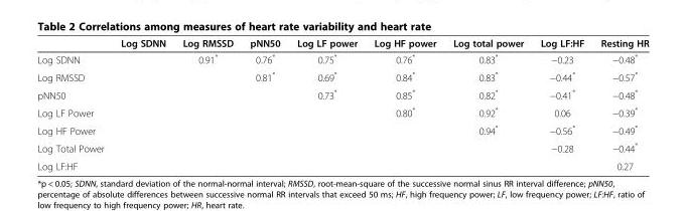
<table><thead><tr><td></td><td>Log SDNN</td><td>Log RMSSD</td><td>pNN50</td><td>Log LF power</td><td>Log HF power</td><td>Log total power</td><td>Log LF:HF</td><td>Resting HR</td></tr></thead><tbody><tr><td>Log SDNN</td><td></td><td>0.91*</td><td>0.76*</td><td>0.75*</td><td>0.76*</td><td>0.83*</td><td>−0.23</td><td>−0.48*</td></tr><tr><td>Log RMSSD</td><td></td><td></td><td>0.81*</td><td>0.69*</td><td>0.84*</td><td>0.83*</td><td>−0.44*</td><td>−0.57*</td></tr><tr><td>pNN50</td><td></td><td></td><td></td><td>0.73*</td><td>0.85*</td><td>0.82*</td><td>−0.41*</td><td>−0.48*</td></tr><tr><td>Log LF Power</td><td></td><td></td><td></td><td></td><td>0.80*</td><td>0.92*</td><td>0.06</td><td>−0.39*</td></tr><tr><td>Log HF Power</td><td></td><td></td><td></td><td></td><td></td><td>0.94*</td><td>−0.56*</td><td>−0.49*</td></tr><tr><td>Log Total Power</td><td></td><td></td><td></td><td></td><td></td><td></td><td>−0.28</td><td>−0.44*</td></tr><tr><td>Log LF:HF</td><td></td><td></td><td></td><td></td><td></td><td></td><td></td><td>0.27</td></tr></tbody></table>